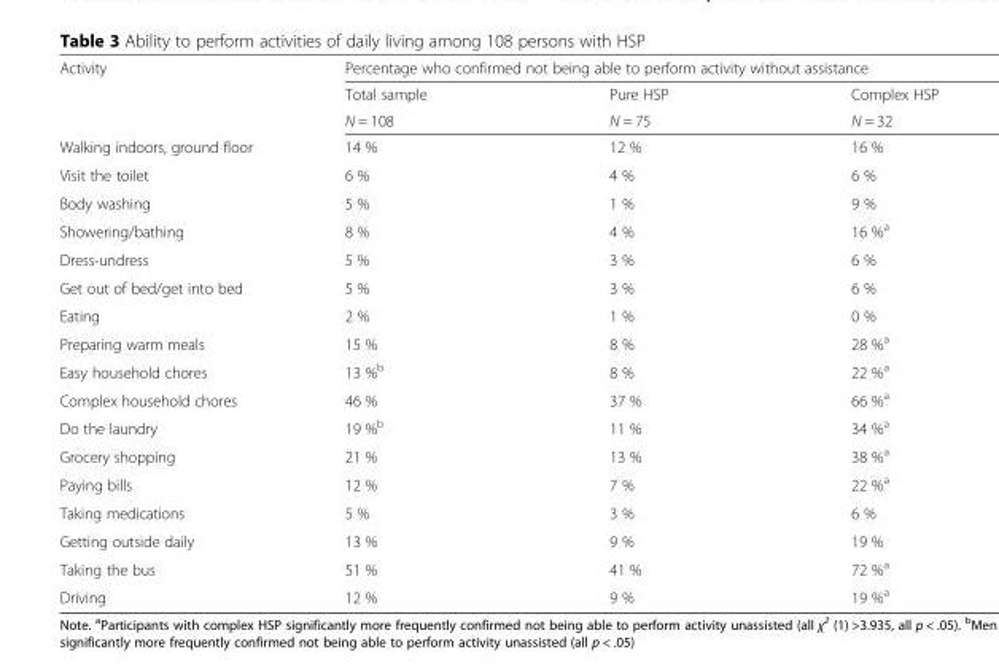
<table><thead><tr><td rowspan="3">Activity</td><td colspan="3">Percentage who confirmed not being able to perform activity without assistance</td></tr><tr><td rowspan="2">Total sample N = 108</td><td rowspan="2">Pure HSP N = 75</td><td rowspan="2">Complex HSP N = 32</td></tr><tr></tr></thead><tbody><tr><td>Walking indoors, ground floor</td><td>14 %</td><td>12 %</td><td>16 %</td></tr><tr><td>Visit the toilet</td><td>6 %</td><td>4 %</td><td>6 %</td></tr><tr><td>Body washing</td><td>5 %</td><td>1 %</td><td>9 %</td></tr><tr><td>Showering/bathing</td><td>8 %</td><td>4 %</td><td>16 %<sup>a</sup></td></tr><tr><td>Dress-undress</td><td>5 %</td><td>3 %</td><td>6 %</td></tr><tr><td>Get out of bed/get into bed</td><td>5 %</td><td>3 %</td><td>6 %</td></tr><tr><td>Eating</td><td>2 %</td><td>1 %</td><td>0 %</td></tr><tr><td>Preparing warm meals</td><td>15 %</td><td>8 %</td><td>28 %<sup>a</sup></td></tr><tr><td>Easy household chores</td><td>13 %<sup>b</sup></td><td>8 %</td><td>22 %<sup>a</sup></td></tr><tr><td>Complex household chores</td><td>46 %</td><td>37 %</td><td>66 %<sup>a</sup></td></tr><tr><td>Do the laundry</td><td>19 %<sup>b</sup></td><td>11 %</td><td>34 %<sup>a</sup></td></tr><tr><td>Grocery shopping</td><td>21 %</td><td>13 %</td><td>38 %<sup>a</sup></td></tr><tr><td>Paying bills</td><td>12 %</td><td>7 %</td><td>22 %<sup>a</sup></td></tr><tr><td>Taking medications</td><td>5 %</td><td>3 %</td><td>6 %</td></tr><tr><td>Getting outside daily</td><td>13 %</td><td>9 %</td><td>19 %</td></tr><tr><td>Taking the bus</td><td>51 %</td><td>41 %</td><td>72 %<sup>a</sup></td></tr><tr><td>Driving</td><td>12 %</td><td>9 %</td><td>19 %<sup>a</sup></td></tr></tbody></table>